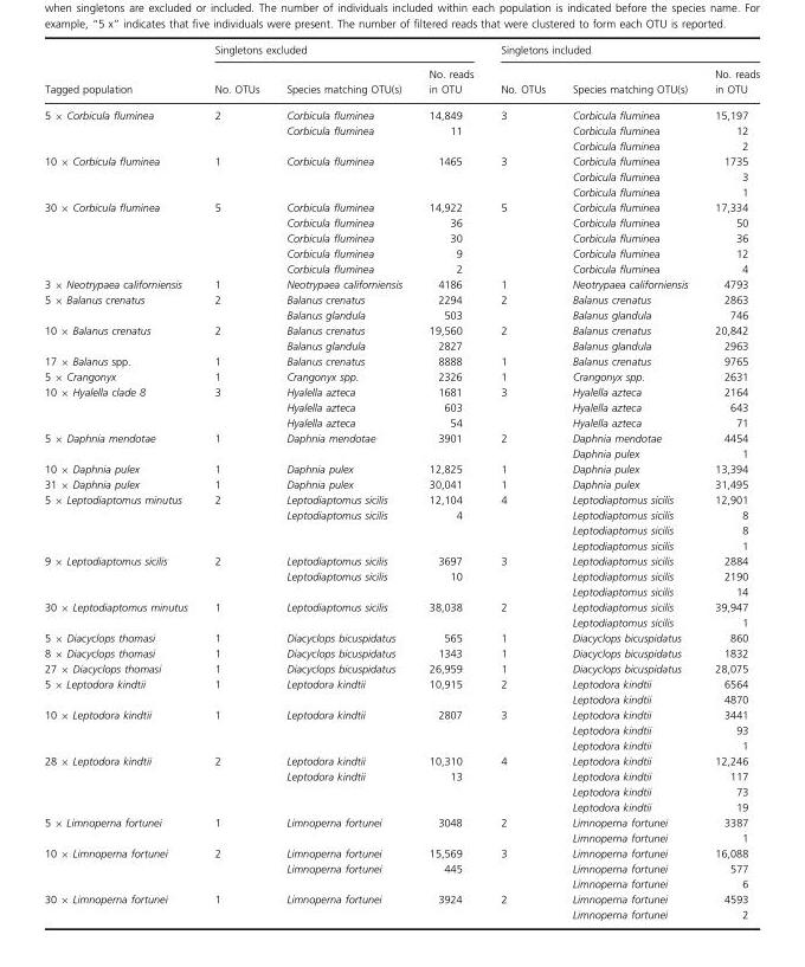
<table><thead><tr><td rowspan="2">Tagged population</td><td colspan="3">Singletons excluded</td><td colspan="3">Singletons included</td></tr><tr><td>No. OTUs</td><td>Species matching OTU(s)</td><td>No. reads in OTU</td><td>No. OTUs</td><td>Species matching OTU(s)</td><td>No. reads in OTU</td></tr></thead><tbody><tr><td rowspan="3">5 × Corbicula fluminea</td><td>2</td><td>Corbicula fluminea</td><td>14,849</td><td>3</td><td>Corbicula fluminea</td><td>15,197</td></tr><tr><td></td><td>Corbicula fluminea</td><td>11</td><td></td><td>Corbicula fluminea</td><td>12</td></tr><tr><td></td><td></td><td></td><td></td><td>Corbicula fluminea</td><td>2</td></tr><tr><td rowspan="3">10 × Corbicula fluminea</td><td>1</td><td>Corbicula fluminea</td><td>1465</td><td>3</td><td>Corbicula fluminea</td><td>1735</td></tr><tr><td></td><td></td><td></td><td></td><td>Corbicula fluminea</td><td>3</td></tr><tr><td></td><td></td><td></td><td></td><td>Corbicula fluminea</td><td>1</td></tr><tr><td rowspan="5">30 × Corbicula fluminea</td><td>5</td><td>Corbicula fluminea</td><td>14,922</td><td>5</td><td>Corbicula fluminea</td><td>17,334</td></tr><tr><td></td><td>Corbicula fluminea</td><td>36</td><td></td><td>Corbicula fluminea</td><td>50</td></tr><tr><td></td><td>Corbicula fluminea</td><td>30</td><td></td><td>Corbicula fluminea</td><td>36</td></tr><tr><td></td><td>Corbicula fluminea</td><td>9</td><td></td><td>Corbicula fluminea</td><td>12</td></tr><tr><td></td><td>Corbicula fluminea</td><td>2</td><td></td><td>Corbicula fluminea</td><td>4</td></tr><tr><td>3 × Neotrypaea californiensis</td><td>1</td><td>Neotrypaea californiensis</td><td>4186</td><td>1</td><td>Neotrypaea californiensis</td><td>4793</td></tr><tr><td rowspan="2">5 × Balanus crenatus</td><td>2</td><td>Balanus crenatus</td><td>2294</td><td>2</td><td>Balanus crenatus</td><td>2863</td></tr><tr><td></td><td>Balanus glandula</td><td>503</td><td></td><td>Balanus glandula</td><td>746</td></tr><tr><td rowspan="2">10 × Balanus crenatus</td><td>2</td><td>Balanus crenatus</td><td>19,560</td><td>2</td><td>Balanus crenatus</td><td>20,842</td></tr><tr><td></td><td>Balanus glandula</td><td>2827</td><td></td><td>Balanus glandula</td><td>2963</td></tr><tr><td>17 × Balanus spp.</td><td>1</td><td>Balanus crenatus</td><td>8888</td><td>1</td><td>Balanus crenatus</td><td>9765</td></tr><tr><td>5 × Crangonyx</td><td>1</td><td>Crangonyx spp.</td><td>2326</td><td>1</td><td>Crangonyx spp.</td><td>2631</td></tr><tr><td rowspan="3">10 × Hyalella clade 8</td><td>3</td><td>Hyalella azteca</td><td>1681</td><td>3</td><td>Hyalella azteca</td><td>2164</td></tr><tr><td></td><td>Hyalella azteca</td><td>603</td><td></td><td>Hyalella azteca</td><td>643</td></tr><tr><td></td><td>Hyalella azteca</td><td>54</td><td></td><td>Hyalella azteca</td><td>71</td></tr><tr><td rowspan="2">5 × Daphnia mendotae</td><td>1</td><td>Daphnia mendotae</td><td>3901</td><td>2</td><td>Daphnia mendotae</td><td>4454</td></tr><tr><td></td><td></td><td></td><td></td><td>Daphnia pulex</td><td>1</td></tr><tr><td>10 × Daphnia pulex</td><td>1</td><td>Daphnia pulex</td><td>12,825</td><td>1</td><td>Daphnia pulex</td><td>13,394</td></tr><tr><td>31 × Daphnia pulex</td><td>1</td><td>Daphnia pulex</td><td>30,041</td><td>1</td><td>Daphnia pulex</td><td>31,495</td></tr><tr><td rowspan="4">5 × Leptodiaptomus minutus</td><td>2</td><td>Leptodiaptomus sicilis</td><td>12,104</td><td>4</td><td>Leptodiaptomus sicilis</td><td>12,901</td></tr><tr><td></td><td>Leptodiaptomus sicilis</td><td>4</td><td></td><td>Leptodiaptomus sicilis</td><td>8</td></tr><tr><td></td><td></td><td></td><td></td><td>Leptodiaptomus sicilis</td><td>8</td></tr><tr><td></td><td></td><td></td><td></td><td>Leptodiaptomus sicilis</td><td>1</td></tr><tr><td rowspan="3">9 × Leptodiaptomus sicilis</td><td>2</td><td>Leptodiaptomus sicilis</td><td>3697</td><td>3</td><td>Leptodiaptomus sicilis</td><td>2884</td></tr><tr><td></td><td>Leptodiaptomus sicilis</td><td>10</td><td></td><td>Leptodiaptomus sicilis</td><td>2190</td></tr><tr><td></td><td></td><td></td><td></td><td>Leptodiaptomus sicilis</td><td>14</td></tr><tr><td rowspan="2">30 × Leptodiaptomus minutus</td><td>1</td><td>Leptodiaptomus sicilis</td><td>38,038</td><td>2</td><td>Leptodiaptomus sicilis</td><td>39,947</td></tr><tr><td></td><td></td><td></td><td></td><td>Leptodiaptomus sicilis</td><td>1</td></tr><tr><td>5 × Diacyclops thomasi</td><td>1</td><td>Diacyclops bicuspidatus</td><td>565</td><td>1</td><td>Diacyclops bicuspidatus</td><td>860</td></tr><tr><td>8 × Diacyclops thomasi</td><td>1</td><td>Diacyclops bicuspidatus</td><td>1343</td><td>1</td><td>Diacyclops bicuspidatus</td><td>1832</td></tr><tr><td>27 × Diacyclops thomasi</td><td>1</td><td>Diacyclops bicuspidatus</td><td>26,959</td><td>1</td><td>Diacyclops bicuspidatus</td><td>28,075</td></tr><tr><td rowspan="2">5 × Leptodora kindtii</td><td>1</td><td>Leptodora kindtii</td><td>10,915</td><td>2</td><td>Leptodora kindtii</td><td>6564</td></tr><tr><td></td><td></td><td></td><td></td><td>Leptodora kindtii</td><td>4870</td></tr><tr><td rowspan="3">10 × Leptodora kindtii</td><td>1</td><td>Leptodora kindtii</td><td>2807</td><td>3</td><td>Leptodora kindtii</td><td>3441</td></tr><tr><td></td><td></td><td></td><td></td><td>Leptodora kindtii</td><td>93</td></tr><tr><td></td><td></td><td></td><td></td><td>Leptodora kindtii</td><td>1</td></tr><tr><td rowspan="4">28 × Leptodora kindtii</td><td>2</td><td>Leptodora kindtii</td><td>10,310</td><td>4</td><td>Leptodora kindtii</td><td>12,246</td></tr><tr><td></td><td>Leptodora kindtii</td><td>13</td><td></td><td>Leptodora kindtii</td><td>117</td></tr><tr><td></td><td></td><td></td><td></td><td>Leptodora kindtii</td><td>73</td></tr><tr><td></td><td></td><td></td><td></td><td>Leptodora kindtii</td><td>19</td></tr><tr><td rowspan="2">5 × Limnoperna fortunei</td><td>1</td><td>Limnoperna fortunei</td><td>3048</td><td>2</td><td>Limnoperna fortunei</td><td>3387</td></tr><tr><td></td><td></td><td></td><td></td><td>Limnoperna fortunei</td><td>1</td></tr><tr><td rowspan="3">10 × Limnoperna fortunei</td><td>2</td><td>Limnoperna fortunei</td><td>15,569</td><td>3</td><td>Limnoperna fortunei</td><td>16,088</td></tr><tr><td></td><td>Limnoperna fortunei</td><td>445</td><td></td><td>Limnoperna fortunei</td><td>577</td></tr><tr><td></td><td></td><td></td><td></td><td>Limnoperna fortunei</td><td>6</td></tr><tr><td rowspan="2">30 × Limnoperna fortunei</td><td>1</td><td>Limnoperna fortunei</td><td>3924</td><td>2</td><td>Limnoperna fortunei</td><td>4593</td></tr><tr><td></td><td></td><td></td><td></td><td>Limnoperna fortunei</td><td>2</td></tr></tbody></table>